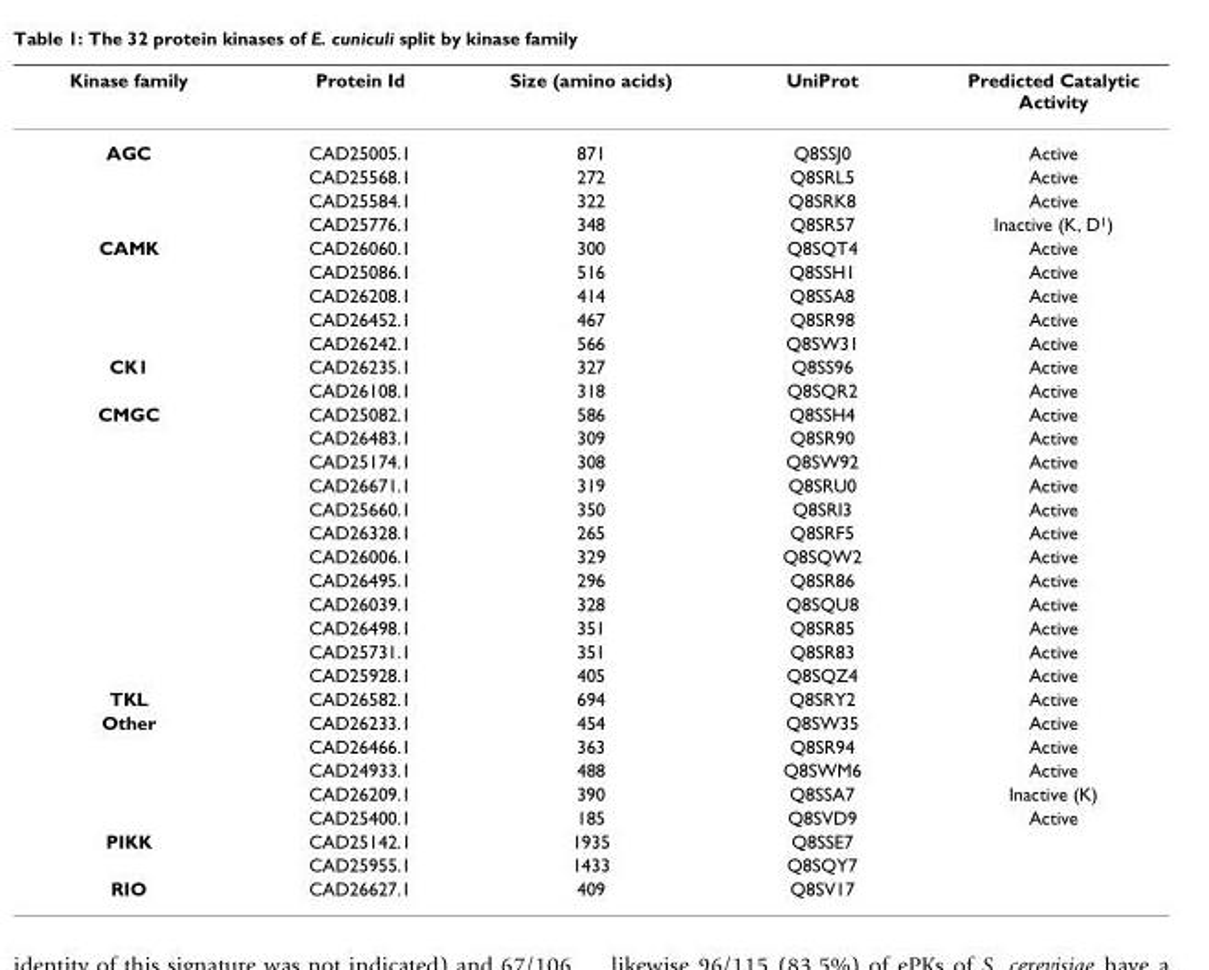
<table><thead><tr><td>Kinase family</td><td>Protein Id</td><td>Size (amino acids)</td><td>UniProt</td><td>Predicted Catalytic Activity</td></tr></thead><tbody><tr><td rowspan="4">AGC</td><td>CAD25005.1</td><td>871</td><td>Q8SSJ0</td><td>Active</td></tr><tr><td>CAD25568.1</td><td>272</td><td>Q8SRL5</td><td>Active</td></tr><tr><td>CAD25584.1</td><td>322</td><td>Q8SRK8</td><td>Active</td></tr><tr><td>CAD25776.1</td><td>348</td><td>Q8SR57</td><td>Inactive (K, D<sup>1</sup>)</td></tr><tr><td rowspan="5">CAMK</td><td>CAD26060.1</td><td>300</td><td>Q8SQT4</td><td>Active</td></tr><tr><td>CAD25086.1</td><td>516</td><td>Q8SSH1</td><td>Active</td></tr><tr><td>CAD26208.1</td><td>414</td><td>Q8SSA8</td><td>Active</td></tr><tr><td>CAD26452.1</td><td>467</td><td>Q8SR98</td><td>Active</td></tr><tr><td>CAD26242.1</td><td>566</td><td>Q8SW31</td><td>Active</td></tr><tr><td rowspan="2">CK1</td><td>CAD26235.1</td><td>327</td><td>Q8SS96</td><td>Active</td></tr><tr><td>CAD26108.1</td><td>318</td><td>Q8SQR2</td><td>Active</td></tr><tr><td rowspan="12">CMGC</td><td>CAD25082.1</td><td>586</td><td>Q8SSH4</td><td>Active</td></tr><tr><td>CAD26483.1</td><td>309</td><td>Q8SR90</td><td>Active</td></tr><tr><td>CAD25174.1</td><td>308</td><td>Q8SW92</td><td>Active</td></tr><tr><td>CAD26671.1</td><td>319</td><td>Q8SRU0</td><td>Active</td></tr><tr><td>CAD25660.1</td><td>350</td><td>Q8SRI3</td><td>Active</td></tr><tr><td>CAD26328.1</td><td>265</td><td>Q8SRF5</td><td>Active</td></tr><tr><td>CAD26006.1</td><td>329</td><td>Q8SQW2</td><td>Active</td></tr><tr><td>CAD26495.1</td><td>296</td><td>Q8SR86</td><td>Active</td></tr><tr><td>CAD26039.1</td><td>328</td><td>Q8SQU8</td><td>Active</td></tr><tr><td>CAD26498.1</td><td>351</td><td>Q8SR85</td><td>Active</td></tr><tr><td>CAD25731.1</td><td>351</td><td>Q8SR83</td><td>Active</td></tr><tr><td>CAD25928.1</td><td>405</td><td>Q8SQZ4</td><td>Active</td></tr><tr><td>TKL</td><td>CAD26582.1</td><td>694</td><td>Q8SRY2</td><td>Active</td></tr><tr><td rowspan="5">Other</td><td>CAD26233.1</td><td>454</td><td>Q8SW35</td><td>Active</td></tr><tr><td>CAD26466.1</td><td>363</td><td>Q8SR94</td><td>Active</td></tr><tr><td>CAD24933.1</td><td>488</td><td>Q8SWM6</td><td>Active</td></tr><tr><td>CAD26209.1</td><td>390</td><td>Q8SSA7</td><td>Inactive (K)</td></tr><tr><td>CAD25400.1</td><td>185</td><td>Q8SVD9</td><td>Active</td></tr><tr><td rowspan="2">PIKK</td><td>CAD25142.1</td><td>1935</td><td>Q8SSE7</td><td></td></tr><tr><td>CAD25955.1</td><td>1433</td><td>Q8SQY7</td><td></td></tr><tr><td>RIO</td><td>CAD26627.1</td><td>409</td><td>Q8SV17</td><td></td></tr></tbody></table>